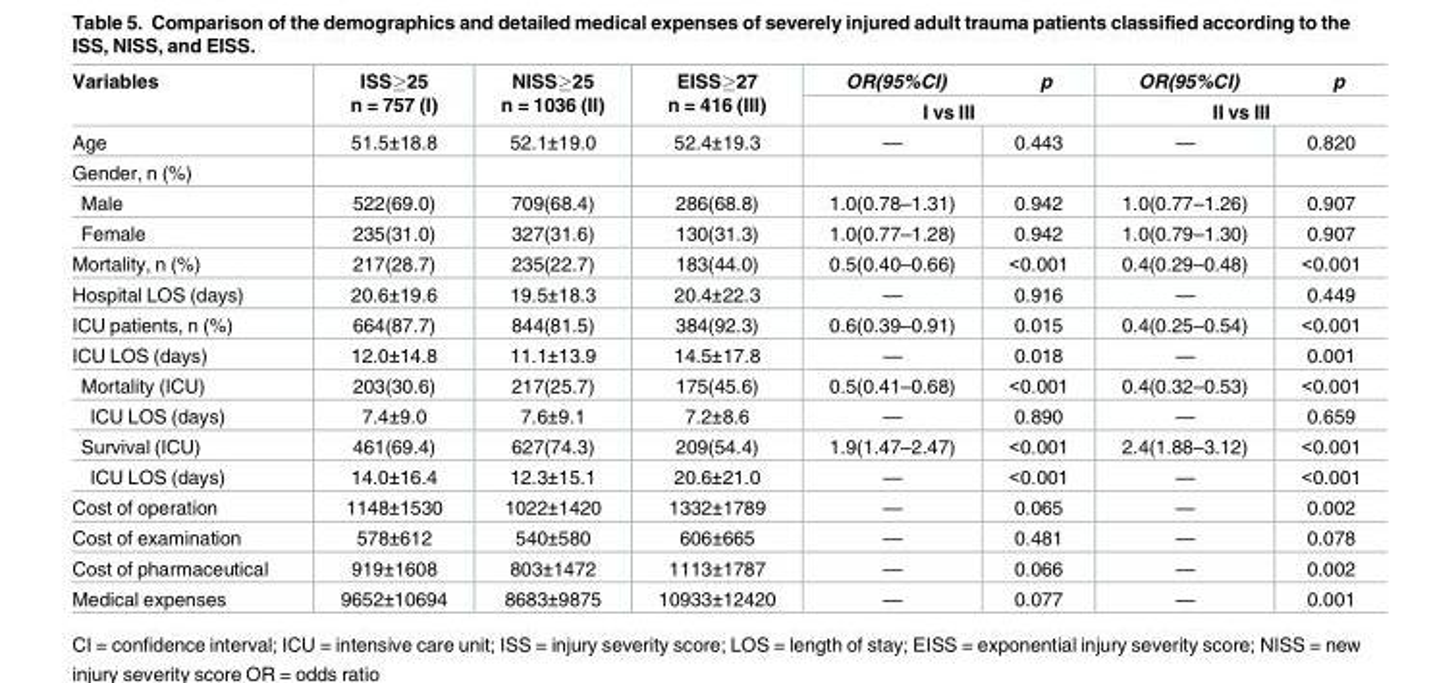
<table><thead><tr><td rowspan="3">Variables Age</td><td rowspan="3">ISS≥25 n = 757 (I) 51.5±18.8</td><td rowspan="3">NISS≥25 n = 1036 (II) 52.1±19.0</td><td rowspan="3">EISS≥27 n = 416 (III) 52.4±19.3</td><td rowspan="2" colspan="2">OR(95%CI) p I vs III</td><td rowspan="2" colspan="2">OR(95%CI) p II vs III</td></tr><tr></tr><tr><td>—</td><td>0.443</td><td>—</td><td>0.820</td></tr></thead><tbody><tr><td colspan="8">Gender, n (%)</td></tr><tr><td>Male</td><td>522(69.0)</td><td>709(68.4)</td><td>286(68.8)</td><td>1.0(0.78–1.31)</td><td>0.942</td><td>1.0(0.77–1.26)</td><td>0.907</td></tr><tr><td>Female</td><td>235(31.0)</td><td>327(31.6)</td><td>130(31.3)</td><td>1.0(0.77–1.28)</td><td>0.942</td><td>1.0(0.79–1.30)</td><td>0.907</td></tr><tr><td>Mortality, n (%)</td><td>217(28.7)</td><td>235(22.7)</td><td>183(44.0)</td><td>0.5(0.40–0.66)</td><td>&lt;0.001</td><td>0.4(0.29–0.48)</td><td>&lt;0.001</td></tr><tr><td>Hospital LOS (days)</td><td>20.6±19.6</td><td>19.5±18.3</td><td>20.4±22.3</td><td>—</td><td>0.916</td><td>—</td><td>0.449</td></tr><tr><td>ICU patients, n (%)</td><td>664(87.7)</td><td>844(81.5)</td><td>384(92.3)</td><td>0.6(0.39–0.91)</td><td>0.015</td><td>0.4(0.25–0.54)</td><td>&lt;0.001</td></tr><tr><td>ICU LOS (days)</td><td>12.0±14.8</td><td>11.1±13.9</td><td>14.5±17.8</td><td>—</td><td>0.018</td><td>—</td><td>0.001</td></tr><tr><td>Mortality (ICU)</td><td>203(30.6)</td><td>217(25.7)</td><td>175(45.6)</td><td>0.5(0.41–0.68)</td><td>&lt;0.001</td><td>0.4(0.32–0.53)</td><td>&lt;0.001</td></tr><tr><td>ICU LOS (days)</td><td>7.4±9.0</td><td>7.6±9.1</td><td>7.2±8.6</td><td>—</td><td>0.890</td><td>—</td><td>0.659</td></tr><tr><td>Survival (ICU)</td><td>461(69.4)</td><td>627(74.3)</td><td>209(54.4)</td><td>1.9(1.47–2.47)</td><td>&lt;0.001</td><td>2.4(1.88–3.12)</td><td>&lt;0.001</td></tr><tr><td>ICU LOS (days)</td><td>14.0±16.4</td><td>12.3±15.1</td><td>20.6±21.0</td><td>—</td><td>&lt;0.001</td><td>—</td><td>&lt;0.001</td></tr><tr><td>Cost of operation</td><td>1148±1530</td><td>1022±1420</td><td>1332±1789</td><td>—</td><td>0.065</td><td>—</td><td>0.002</td></tr><tr><td>Cost of examination</td><td>578±612</td><td>540±580</td><td>606±665</td><td>—</td><td>0.481</td><td>—</td><td>0.078</td></tr><tr><td>Cost of pharmaceutical</td><td>919±1608</td><td>803±1472</td><td>1113±1787</td><td>—</td><td>0.066</td><td>—</td><td>0.002</td></tr><tr><td>Medical expenses</td><td>9652±10694</td><td>8683±9875</td><td>10933±12420</td><td>—</td><td>0.077</td><td>—</td><td>0.001</td></tr></tbody></table>